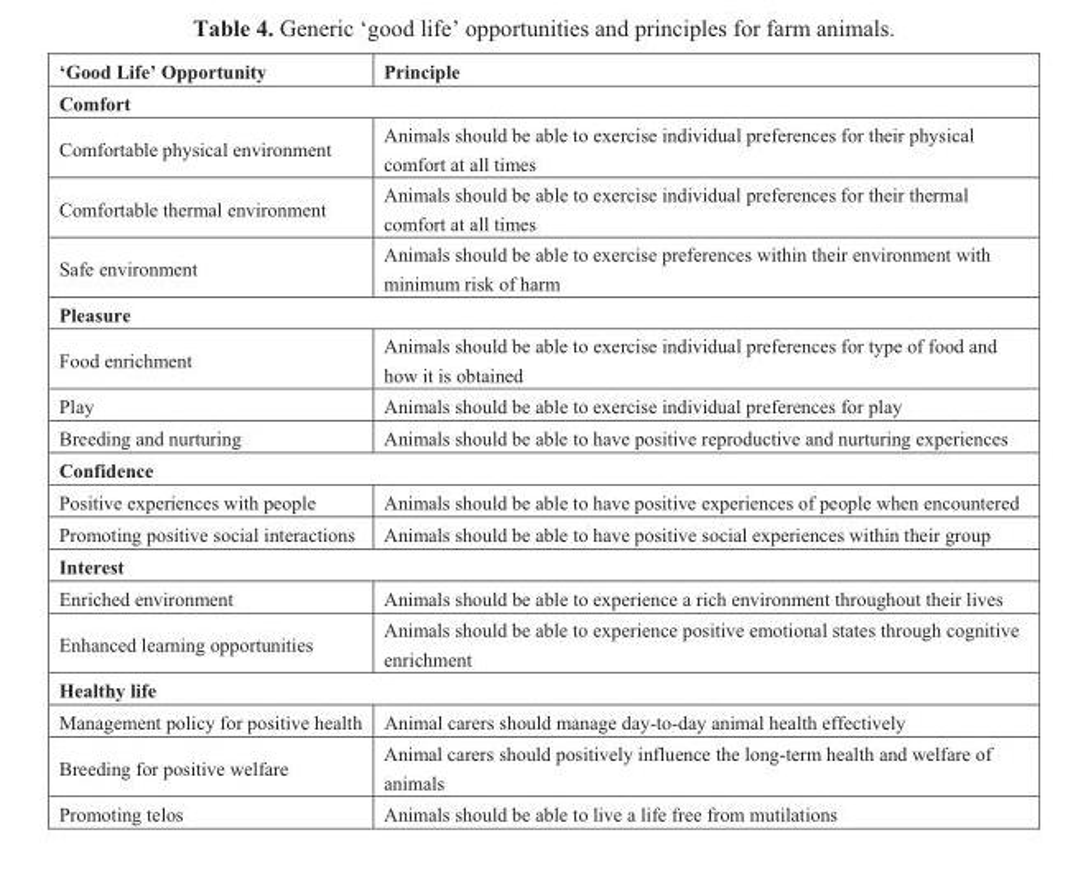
<table><thead><tr><td>‘Good Life’ Opportunity</td><td>Principle</td></tr></thead><tbody><tr><td colspan="2">Comfort</td></tr><tr><td>Comfortable physical environment</td><td>Animals should be able to exercise individual preferences for their physical comfort at all times</td></tr><tr><td>Comfortable thermal environment</td><td>Animals should be able to exercise individual preferences for their thermal comfort at all times</td></tr><tr><td>Safe environment</td><td>Animals should be able to exercise preferences within their environment with minimum risk of harm</td></tr><tr><td colspan="2">Pleasure</td></tr><tr><td>Food enrichment</td><td>Animals should be able to exercise individual preferences for type of food and how it is obtained</td></tr><tr><td>Play</td><td>Animals should be able to exercise individual preferences for play</td></tr><tr><td>Breeding and nurturing</td><td>Animals should be able to have positive reproductive and nurturing experiences</td></tr><tr><td colspan="2">Confidence</td></tr><tr><td>Positive experiences with people</td><td>Animals should be able to have positive experiences of people when encountered</td></tr><tr><td>Promoting positive social interactions</td><td>Animals should be able to have positive social experiences within their group</td></tr><tr><td colspan="2">Interest</td></tr><tr><td>Enriched environment</td><td>Animals should be able to experience a rich environment throughout their lives</td></tr><tr><td>Enhanced learning opportunities</td><td>Animals should be able to experience positive emotional states through cognitive enrichment</td></tr><tr><td colspan="2">Healthy life</td></tr><tr><td>Management policy for positive health</td><td>Animal carers should manage day-to-day animal health effectively</td></tr><tr><td>Breeding for positive welfare</td><td>Animal carers should positively influence the long-term health and welfare of animals</td></tr><tr><td>Promoting telos</td><td>Animals should be able to live a life free from mutilations</td></tr></tbody></table>